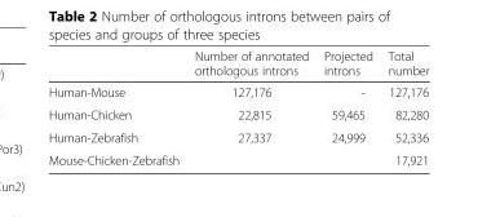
<table><thead><tr><td></td><td>Number of annotated orthologous introns</td><td>Projected introns</td><td>Total number</td></tr></thead><tbody><tr><td>Human-Mouse</td><td>127,176</td><td>-</td><td>127,176</td></tr><tr><td>Human-Chicken</td><td>22,815</td><td>59,465</td><td>82,280</td></tr><tr><td>Human-Zebrafish</td><td>27,337</td><td>24,999</td><td>52,336</td></tr><tr><td>Mouse-Chicken-Zebrafish</td><td></td><td></td><td>17,921</td></tr></tbody></table>